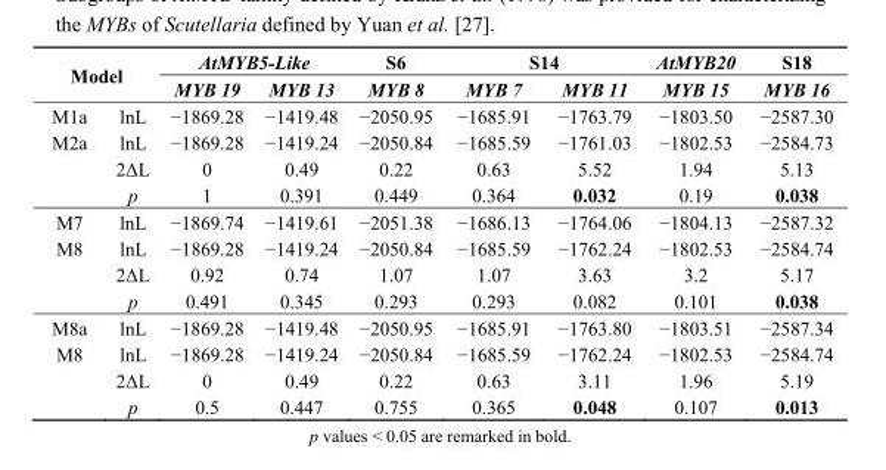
<table><thead><tr><td rowspan="2" colspan="2">Model</td><td colspan="2">AtMYB5-Like</td><td rowspan="3">S6 MYB 8 −2050.95</td><td colspan="2">S14</td><td rowspan="3">AtMYB20 MYB 15 −1803.50</td><td rowspan="3">S18 MYB 16 −2587.30</td></tr><tr><td rowspan="2">MYB 19 −1869.28</td><td rowspan="2">MYB 13 −1419.48</td><td rowspan="2">MYB 7 −1685.91</td><td rowspan="2">MYB 11 −1763.79</td></tr><tr><td>M1a</td><td>lnL</td></tr></thead><tbody><tr><td rowspan="3">M2a</td><td>lnL</td><td>−1869.28</td><td>−1419.24</td><td>−2050.84</td><td>−1685.59</td><td>−1761.03</td><td>−1802.53</td><td>−2584.73</td></tr><tr><td>2ΔL</td><td>0</td><td>0.49</td><td>0.22</td><td>0.63</td><td>5.52</td><td>1.94</td><td>5.13</td></tr><tr><td>p</td><td>1</td><td>0.391</td><td>0.449</td><td>0.364</td><td>0.032</td><td>0.19</td><td>0.038</td></tr><tr><td>M7</td><td>lnL</td><td>−1869.74</td><td>−1419.61</td><td>−2051.38</td><td>−1686.13</td><td>−1764.06</td><td>−1804.13</td><td>−2587.32</td></tr><tr><td rowspan="3">M8</td><td>lnL</td><td>−1869.28</td><td>−1419.24</td><td>−2050.84</td><td>−1685.59</td><td>−1762.24</td><td>−1802.53</td><td>−2584.74</td></tr><tr><td>2ΔL</td><td>0.92</td><td>0.74</td><td>1.07</td><td>1.07</td><td>3.63</td><td>3.2</td><td>5.17</td></tr><tr><td>p</td><td>0.491</td><td>0.345</td><td>0.293</td><td>0.293</td><td>0.082</td><td>0.101</td><td>0.038</td></tr><tr><td>M8a</td><td>lnL</td><td>−1869.28</td><td>−1419.48</td><td>−2050.95</td><td>−1685.91</td><td>−1763.80</td><td>−1803.51</td><td>−2587.34</td></tr><tr><td rowspan="3">M8</td><td>lnL</td><td>−1869.28</td><td>−1419.24</td><td>−2050.84</td><td>−1685.59</td><td>−1762.24</td><td>−1802.53</td><td>−2584.74</td></tr><tr><td>2ΔL</td><td>0</td><td>0.49</td><td>0.22</td><td>0.63</td><td>3.11</td><td>1.96</td><td>5.19</td></tr><tr><td>p</td><td>0.5</td><td>0.447</td><td>0.755</td><td>0.365</td><td>0.048</td><td>0.107</td><td>0.013</td></tr></tbody></table>